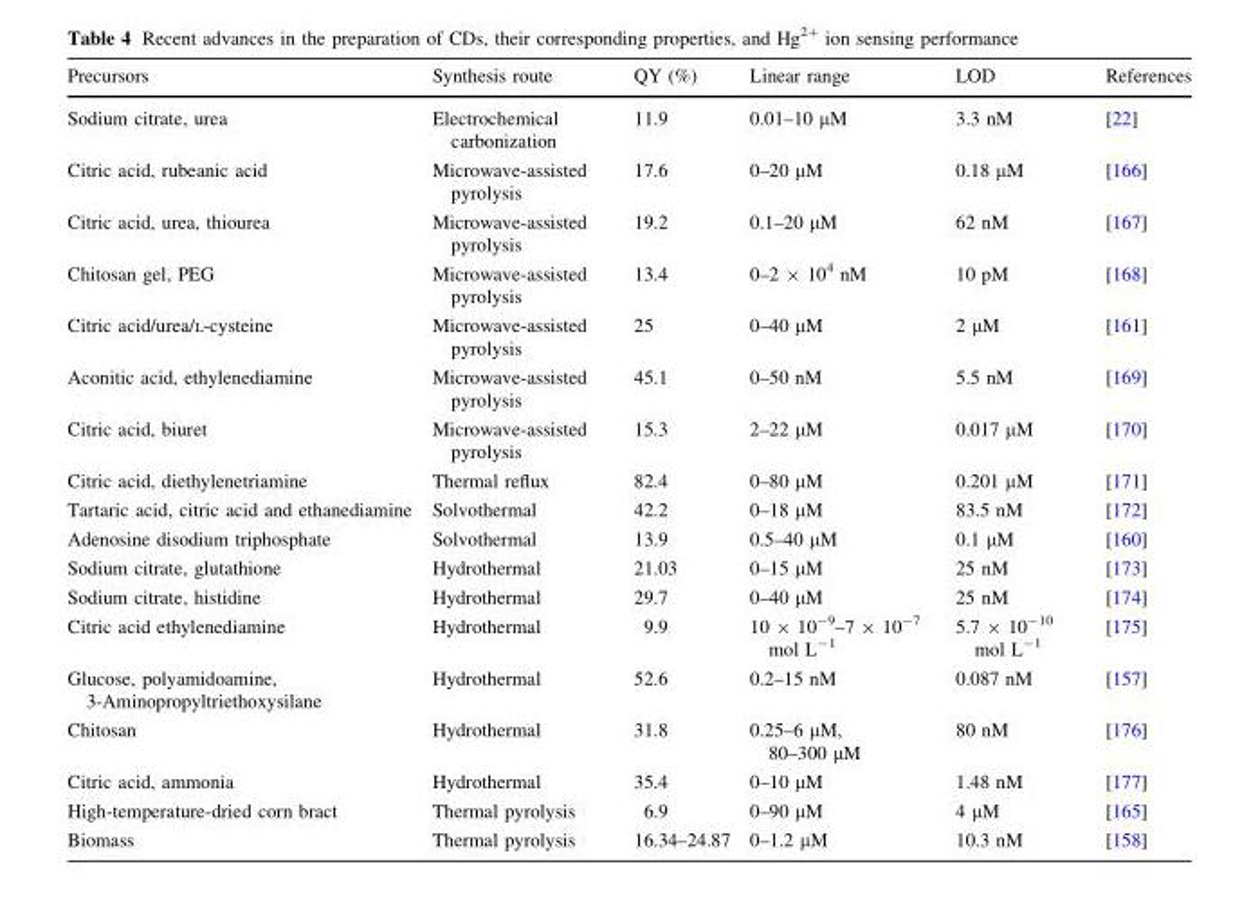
<table><thead><tr><td>Precursors</td><td>Synthesis route</td><td>QY (%)</td><td>Linear range</td><td>LOD</td><td>References</td></tr></thead><tbody><tr><td>Sodium citrate, urea</td><td>Electrochemical carbonization</td><td>11.9</td><td>0.01–10 µM</td><td>3.3 nM</td><td>[22]</td></tr><tr><td>Citric acid, rubeanic acid</td><td>Microwave-assisted pyrolysis</td><td>17.6</td><td>0–20 µM</td><td>0.18 µM</td><td>[166]</td></tr><tr><td>Citric acid, urea, thiourea</td><td>Microwave-assisted pyrolysis</td><td>19.2</td><td>0.1–20 µM</td><td>62 nM</td><td>[167]</td></tr><tr><td>Chitosan gel, PEG</td><td>Microwave-assisted pyrolysis</td><td>13.4</td><td>0–2 × 10<sup>4</sup> nM</td><td>10 pM</td><td>[168]</td></tr><tr><td>Citric acid/urea/L-cysteine</td><td>Microwave-assisted pyrolysis</td><td>25</td><td>0–40 µM</td><td>2 µM</td><td>[161]</td></tr><tr><td>Aconitic acid, ethylenediamine</td><td>Microwave-assisted pyrolysis</td><td>45.1</td><td>0–50 nM</td><td>5.5 nM</td><td>[169]</td></tr><tr><td>Citric acid, biuret</td><td>Microwave-assisted pyrolysis</td><td>15.3</td><td>2–22 µM</td><td>0.017 µM</td><td>[170]</td></tr><tr><td>Citric acid, diethylenetriamine</td><td>Thermal reflux</td><td>82.4</td><td>0–80 µM</td><td>0.201 µM</td><td>[171]</td></tr><tr><td>Tartaric acid, citric acid and ethanediamine</td><td>Solvothermal</td><td>42.2</td><td>0–18 µM</td><td>83.5 nM</td><td>[172]</td></tr><tr><td>Adenosine disodium triphosphate</td><td>Solvothermal</td><td>13.9</td><td>0.5–40 µM</td><td>0.1 µM</td><td>[160]</td></tr><tr><td>Sodium citrate, glutathione</td><td>Hydrothermal</td><td>21.03</td><td>0–15 µM</td><td>25 nM</td><td>[173]</td></tr><tr><td>Sodium citrate, histidine</td><td>Hydrothermal</td><td>29.7</td><td>0–40 µM</td><td>25 nM</td><td>[174]</td></tr><tr><td>Citric acid ethylenediamine</td><td>Hydrothermal</td><td>9.9</td><td>10 × 10<sup>-9</sup>–7 × 10<sup>-7</sup> mol L<sup>-1</sup></td><td>5.7 × 10<sup>-10</sup> mol L<sup>-1</sup></td><td>[175]</td></tr><tr><td>Glucose, polyamidoamine, 3-Aminopropyltriethoxysilane</td><td>Hydrothermal</td><td>52.6</td><td>0.2–15 nM</td><td>0.087 nM</td><td>[157]</td></tr><tr><td>Chitosan</td><td>Hydrothermal</td><td>31.8</td><td>0.25–6 µM, 80–300 µM</td><td>80 nM</td><td>[176]</td></tr><tr><td>Citric acid, ammonia</td><td>Hydrothermal</td><td>35.4</td><td>0–10 µM</td><td>1.48 nM</td><td>[177]</td></tr><tr><td>High-temperature-dried corn bract</td><td>Thermal pyrolysis</td><td>6.9</td><td>0–90 µM</td><td>4 µM</td><td>[165]</td></tr><tr><td>Biomass</td><td>Thermal pyrolysis</td><td>16.34–24.87</td><td>0–1.2 µM</td><td>10.3 nM</td><td>[158]</td></tr></tbody></table>